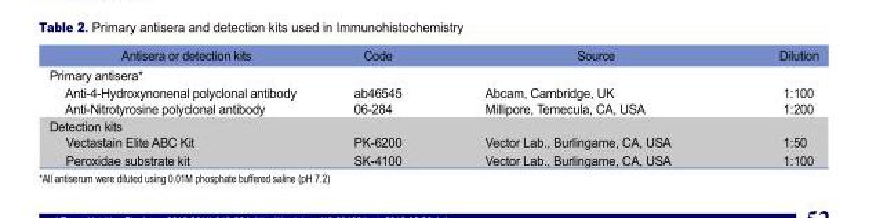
<table><thead><tr><td>Antisera or detection kits</td><td>Code</td><td>Source</td><td>Dilution</td></tr></thead><tbody><tr><td colspan="4">Primary antisera*</td></tr><tr><td>Anti-4-Hydroxynonenal polyclonal antibody</td><td>ab46545</td><td>Abcam, Cambridge, UK</td><td>1:100</td></tr><tr><td>Anti-Nitrotyrosine polyclonal antibody</td><td>06-284</td><td>Millipore, Temecula, CA, USA</td><td>1:200</td></tr><tr><td colspan="4">Detection kits</td></tr><tr><td>Vectastain Elite ABC Kit</td><td>PK-6200</td><td>Vector Lab., Burlingame, CA, USA</td><td>1:50</td></tr><tr><td>Peroxidae substrate kit</td><td>SK-4100</td><td>Vector Lab., Burlingame, CA, USA</td><td>1:100</td></tr></tbody></table>